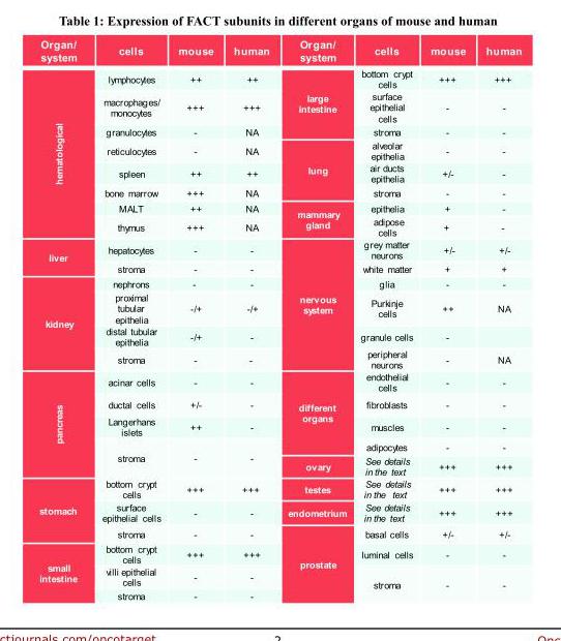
<table><thead><tr><td>Organ/ system</td><td>cells</td><td>mouse</td><td>human</td><td>Organ/ system</td><td>cells</td><td>mouse</td><td>human</td></tr></thead><tbody><tr><td rowspan="8">hematological</td><td>lymphocytes</td><td>++</td><td>++</td><td rowspan="3">large intestine</td><td>bottom crypt cells</td><td>+++</td><td>+++</td></tr><tr><td>macrophages/ monocytes</td><td>+++</td><td>+++</td><td>surface epithelial cells</td><td>-</td><td>-</td></tr><tr><td>granulocytes</td><td>-</td><td>NA</td><td>stroma</td><td>-</td><td>-</td></tr><tr><td>reticulocytes</td><td>-</td><td>NA</td><td rowspan="3">lung</td><td>alveolar epithelia</td><td>-</td><td>-</td></tr><tr><td>spleen</td><td>++</td><td>++</td><td>air ducts epithelia</td><td>+/-</td><td>-</td></tr><tr><td>bone marrow</td><td>+++</td><td>NA</td><td>stroma</td><td>-</td><td>-</td></tr><tr><td>MALT</td><td>++</td><td>NA</td><td rowspan="2">mammary gland</td><td>epithelia</td><td>+</td><td>-</td></tr><tr><td>thymus</td><td>+++</td><td>NA</td><td>adipose cells</td><td>+</td><td>-</td></tr><tr><td rowspan="2">liver</td><td>hepatocytes</td><td>-</td><td>-</td><td rowspan="6">nervous system</td><td>grey matter neurons</td><td>+/-</td><td>+/-</td></tr><tr><td>stroma</td><td>-</td><td>-</td><td>white matter</td><td>+</td><td>+</td></tr><tr><td rowspan="4">kidney</td><td>nephrons</td><td>-</td><td>-</td><td>glia</td><td>-</td><td>-</td></tr><tr><td>proximal tubular epithelia</td><td>-/+</td><td>-/+</td><td>Purkinje cells</td><td>++</td><td>NA</td></tr><tr><td>distal tubular epithelia</td><td>-/+</td><td>-</td><td>granule cells</td><td>-</td><td></td></tr><tr><td>stroma</td><td>-</td><td>-</td><td>peripheral neurons</td><td>-</td><td>NA</td></tr><tr><td rowspan="5">pancreas</td><td>acinar cells</td><td>-</td><td>-</td><td rowspan="4">different organs</td><td>endothelial cells</td><td>-</td><td>-</td></tr><tr><td>ductal cells</td><td>+/-</td><td>-</td><td>fibroblasts</td><td>-</td><td>-</td></tr><tr><td>Langerhans islets</td><td>++</td><td>-</td><td>muscles</td><td>-</td><td>-</td></tr><tr><td rowspan="2">stroma</td><td rowspan="2">-</td><td rowspan="2">-</td><td>adipocytes</td><td>-</td><td>-</td></tr><tr><td>ovary</td><td>See details in the text</td><td>+++</td><td>+++</td></tr><tr><td rowspan="3">stomach</td><td>bottom crypt cells</td><td>+++</td><td>+++</td><td>testes</td><td>See details in the text</td><td>+++</td><td>+++</td></tr><tr><td>surface epithelial cells</td><td>-</td><td>-</td><td>endometrium</td><td>See details in the text</td><td>+++</td><td>+++</td></tr><tr><td>stroma</td><td>-</td><td>-</td><td rowspan="4">prostate</td><td>basal cells</td><td>+/-</td><td>+/-</td></tr><tr><td rowspan="3">small intestine</td><td>bottom crypt cells</td><td>+++</td><td>+++</td><td>luminal cells</td><td>-</td><td>-</td></tr><tr><td>villi epithelial cells</td><td>-</td><td>-</td><td rowspan="2">stroma</td><td rowspan="2">-</td><td rowspan="2">-</td></tr><tr><td>stroma</td><td>-</td><td>-</td></tr></tbody></table>